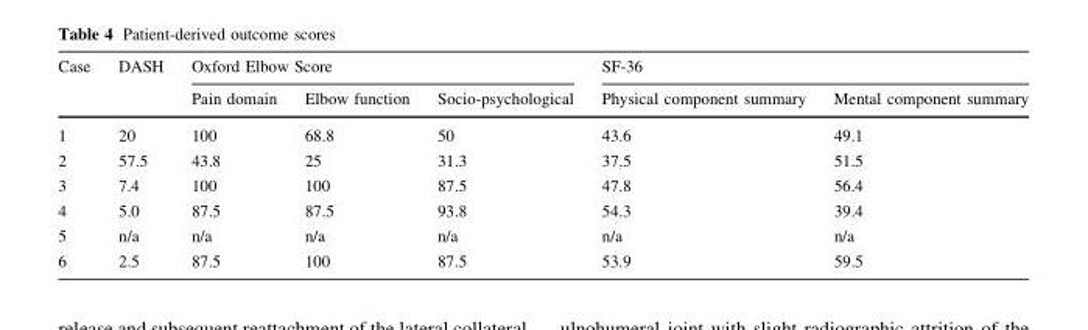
<table><thead><tr><td rowspan="2">Case</td><td rowspan="2">DASH</td><td colspan="3">Oxford Elbow Score</td><td colspan="2">SF-36</td></tr><tr><td>Pain domain</td><td>Elbow function</td><td>Socio-psychological</td><td>Physical component summary</td><td>Mental component summary</td></tr></thead><tbody><tr><td>1</td><td>20</td><td>100</td><td>68.8</td><td>50</td><td>43.6</td><td>49.1</td></tr><tr><td>2</td><td>57.5</td><td>43.8</td><td>25</td><td>31.3</td><td>37.5</td><td>51.5</td></tr><tr><td>3</td><td>7.4</td><td>100</td><td>100</td><td>87.5</td><td>47.8</td><td>56.4</td></tr><tr><td>4</td><td>5.0</td><td>87.5</td><td>87.5</td><td>93.8</td><td>54.3</td><td>39.4</td></tr><tr><td>5</td><td>n/a</td><td>n/a</td><td>n/a</td><td>n/a</td><td>n/a</td><td>n/a</td></tr><tr><td>6</td><td>2.5</td><td>87.5</td><td>100</td><td>87.5</td><td>53.9</td><td>59.5</td></tr></tbody></table>